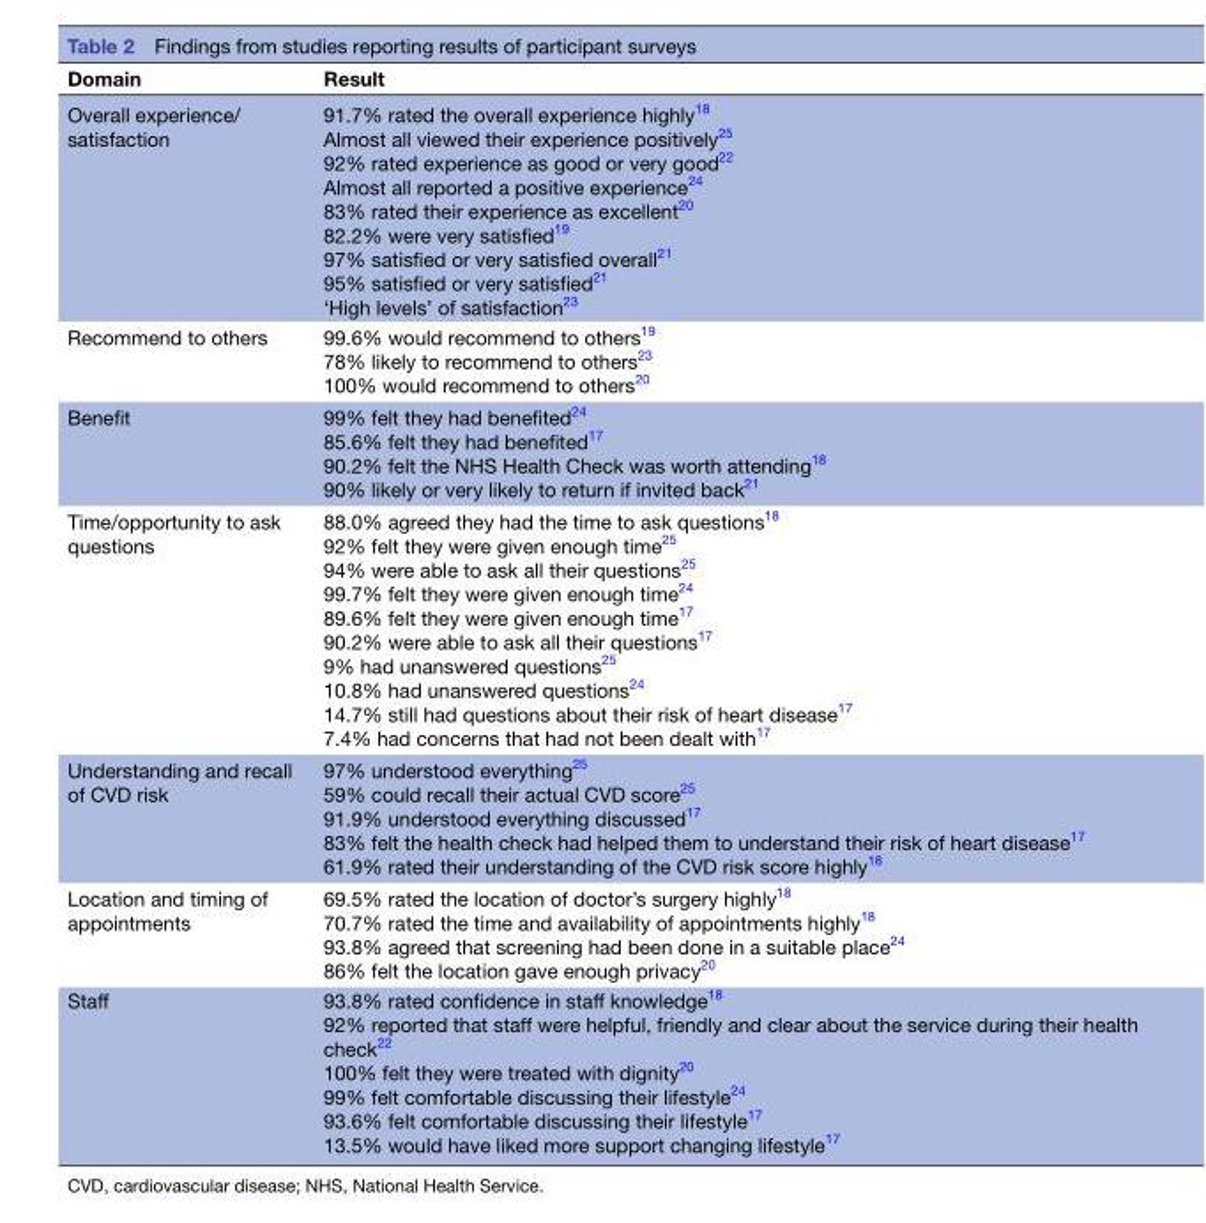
<table><thead><tr><td>Domain</td><td>Result</td></tr></thead><tbody><tr><td>Overall experience/ satisfaction</td><td>91.7% rated the overall experience highly<sup>18</sup> Almost all viewed their experience positively<sup>25</sup> 92% rated experience as good or very good<sup>22</sup> Almost all reported a positive experience<sup>24</sup> 83% rated their experience as excellent<sup>20</sup> 82.2% were very satisfied<sup>19</sup> 97% satisfied or very satisfied overall<sup>21</sup> 95% satisfied or very satisfied<sup>21</sup> ‘High levels’ of satisfaction<sup>23</sup></td></tr><tr><td>Recommend to others</td><td>99.6% would recommend to others<sup>19</sup> 78% likely to recommend to others<sup>23</sup> 100% would recommend to others<sup>20</sup></td></tr><tr><td>Benefit</td><td>99% felt they had benefited<sup>24</sup> 85.6% felt they had benefited<sup>17</sup> 90.2% felt the NHS Health Check was worth attending<sup>18</sup> 90% likely or very likely to return if invited back<sup>21</sup></td></tr><tr><td>Time/opportunity to ask questions</td><td>88.0% agreed they had the time to ask questions<sup>18</sup> 92% felt they were given enough time<sup>25</sup> 94% were able to ask all their questions<sup>25</sup> 99.7% felt they were given enough time<sup>24</sup> 89.6% felt they were given enough time<sup>17</sup> 90.2% were able to ask all their questions<sup>17</sup> 9% had unanswered questions<sup>25</sup> 10.8% had unanswered questions<sup>24</sup> 14.7% still had questions about their risk of heart disease<sup>17</sup> 7.4% had concerns that had not been dealt with<sup>17</sup></td></tr><tr><td>Understanding and recall of CVD risk</td><td>97% understood everything<sup>25</sup> 59% could recall their actual CVD score<sup>25</sup> 91.9% understood everything discussed<sup>17</sup> 83% felt the health check had helped them to understand their risk of heart disease<sup>17</sup> 61.9% rated their understanding of the CVD risk score highly<sup>18</sup></td></tr><tr><td>Location and timing of appointments</td><td>69.5% rated the location of doctor’s surgery highly<sup>18</sup> 70.7% rated the time and availability of appointments highly<sup>18</sup> 93.8% agreed that screening had been done in a suitable place<sup>24</sup> 86% felt the location gave enough privacy<sup>20</sup></td></tr><tr><td>Staff</td><td>93.8% rated confidence in staff knowledge<sup>18</sup> 92% reported that staff were helpful, friendly and clear about the service during their health check<sup>22</sup> 100% felt they were treated with dignity<sup>20</sup> 99% felt comfortable discussing their lifestyle<sup>24</sup> 93.6% felt comfortable discussing their lifestyle<sup>17</sup> 13.5% would have liked more support changing lifestyle<sup>17</sup></td></tr></tbody></table>